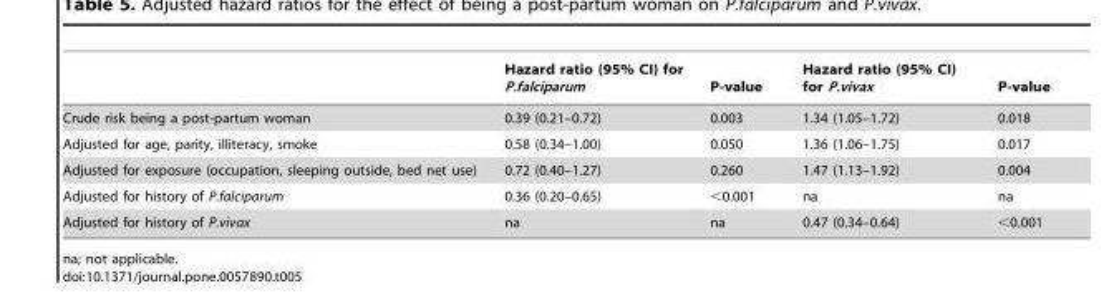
<table><thead><tr><td></td><td>Hazard ratio (95% CI) for P.falciparum</td><td>P-value</td><td>Hazard ratio (95% CI) for P.vivax</td><td>P-value</td></tr></thead><tbody><tr><td>Crude risk being a post-partum woman</td><td>0.39 (0.21–0.72)</td><td>0.003</td><td>1.34 (1.05–1.72)</td><td>0.018</td></tr><tr><td>Adjusted for age, parity, illiteracy, smoke</td><td>0.58 (0.34–1.00)</td><td>0.050</td><td>1.36 (1.06–1.75)</td><td>0.017</td></tr><tr><td>Adjusted for exposure (occupation, sleeping outside, bed net use)</td><td>0.72 (0.40–1.27)</td><td>0.260</td><td>1.47 (1.13–1.92)</td><td>0.004</td></tr><tr><td>Adjusted for history of P.falciparum</td><td>0.36 (0.20–0.65)</td><td>&lt;0.001</td><td>na</td><td>na</td></tr><tr><td>Adjusted for history of P.vivax</td><td>na</td><td>na</td><td>0.47 (0.34–0.64)</td><td>&lt;0.001</td></tr></tbody></table>